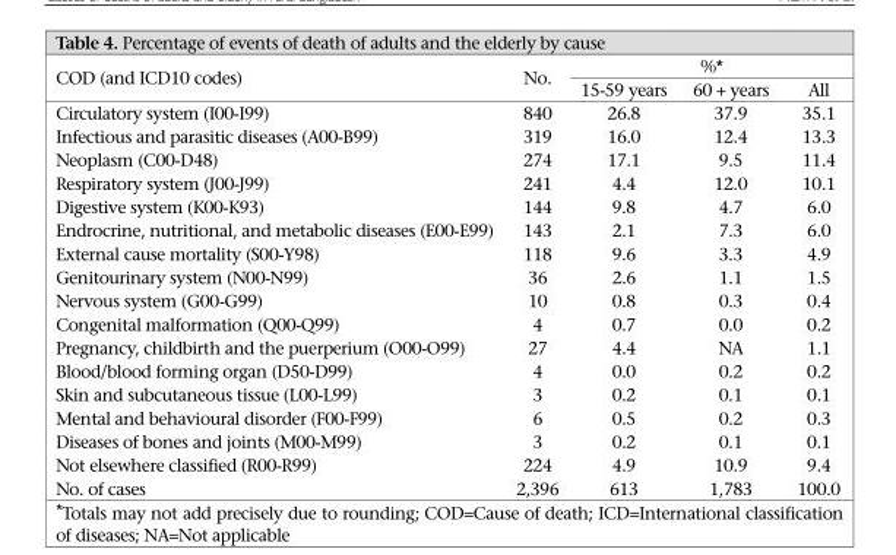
<table><thead><tr><td rowspan="2">COD (and ICD10 codes)</td><td rowspan="2">No.</td><td colspan="3">%*</td></tr><tr><td>15-59 years</td><td>60 + years</td><td>All</td></tr></thead><tbody><tr><td>Circulatory system (I00-I99)</td><td>840</td><td>26.8</td><td>37.9</td><td>35.1</td></tr><tr><td>Infectious and parasitic diseases (A00-B99)</td><td>319</td><td>16.0</td><td>12.4</td><td>13.3</td></tr><tr><td>Neoplasm (C00-D48)</td><td>274</td><td>17.1</td><td>9.5</td><td>11.4</td></tr><tr><td>Respiratory system (J00-J99)</td><td>241</td><td>4.4</td><td>12.0</td><td>10.1</td></tr><tr><td>Digestive system (K00-K93)</td><td>144</td><td>9.8</td><td>4.7</td><td>6.0</td></tr><tr><td>Endrocrine, nutritional, and metabolic diseases (E00-E99)</td><td>143</td><td>2.1</td><td>7.3</td><td>6.0</td></tr><tr><td>External cause mortality (S00-Y98)</td><td>118</td><td>9.6</td><td>3.3</td><td>4.9</td></tr><tr><td>Genitourinary system (N00-N99)</td><td>36</td><td>2.6</td><td>1.1</td><td>1.5</td></tr><tr><td>Nervous system (G00-G99)</td><td>10</td><td>0.8</td><td>0.3</td><td>0.4</td></tr><tr><td>Congenital malformation (Q00-Q99)</td><td>4</td><td>0.7</td><td>0.0</td><td>0.2</td></tr><tr><td>Pregnancy, childbirth and the puerperium (O00-O99)</td><td>27</td><td>4.4</td><td>NA</td><td>1.1</td></tr><tr><td>Blood/blood forming organ (D50-D99)</td><td>4</td><td>0.0</td><td>0.2</td><td>0.2</td></tr><tr><td>Skin and subcutaneous tissue (L00-L99)</td><td>3</td><td>0.2</td><td>0.1</td><td>0.1</td></tr><tr><td>Mental and behavioural disorder (F00-F99)</td><td>6</td><td>0.5</td><td>0.2</td><td>0.3</td></tr><tr><td>Diseases of bones and joints (M00-M99)</td><td>3</td><td>0.2</td><td>0.1</td><td>0.1</td></tr><tr><td>Not elsewhere classified (R00-R99)</td><td>224</td><td>4.9</td><td>10.9</td><td>9.4</td></tr><tr><td>No. of cases</td><td>2,396</td><td>613</td><td>1,783</td><td>100.0</td></tr></tbody></table>